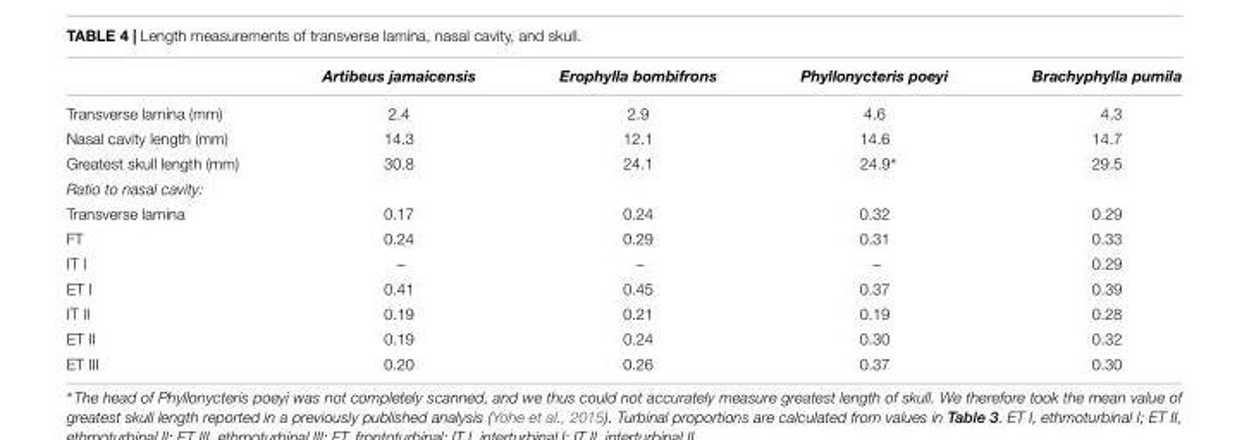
<table><thead><tr><td></td><td>Artibeus jamaicensis</td><td>Erophylla bombifrons</td><td>Phyllonycteris poeyi</td><td>Brachyphylla pumila</td></tr></thead><tbody><tr><td>Transverse lamina (mm)</td><td>2.4</td><td>2.9</td><td>4.6</td><td>4.3</td></tr><tr><td>Nasal cavity length (mm)</td><td>14.3</td><td>12.1</td><td>14.6</td><td>14.7</td></tr><tr><td>Greatest skull length (mm)</td><td>30.8</td><td>24.1</td><td>24.9∗</td><td>29.5</td></tr><tr><td colspan="5">Ratio to nasal cavity:</td></tr><tr><td>Transverse lamina</td><td>0.17</td><td>0.24</td><td>0.32</td><td>0.29</td></tr><tr><td>FT</td><td>0.24</td><td>0.29</td><td>0.31</td><td>0.33</td></tr><tr><td>IT I</td><td>–</td><td>–</td><td>–</td><td>0.29</td></tr><tr><td>ET I</td><td>0.41</td><td>0.45</td><td>0.37</td><td>0.39</td></tr><tr><td>IT II</td><td>0.19</td><td>0.21</td><td>0.19</td><td>0.28</td></tr><tr><td>ET II</td><td>0.19</td><td>0.24</td><td>0.30</td><td>0.32</td></tr><tr><td>ET III</td><td>0.20</td><td>0.26</td><td>0.37</td><td>0.30</td></tr></tbody></table>